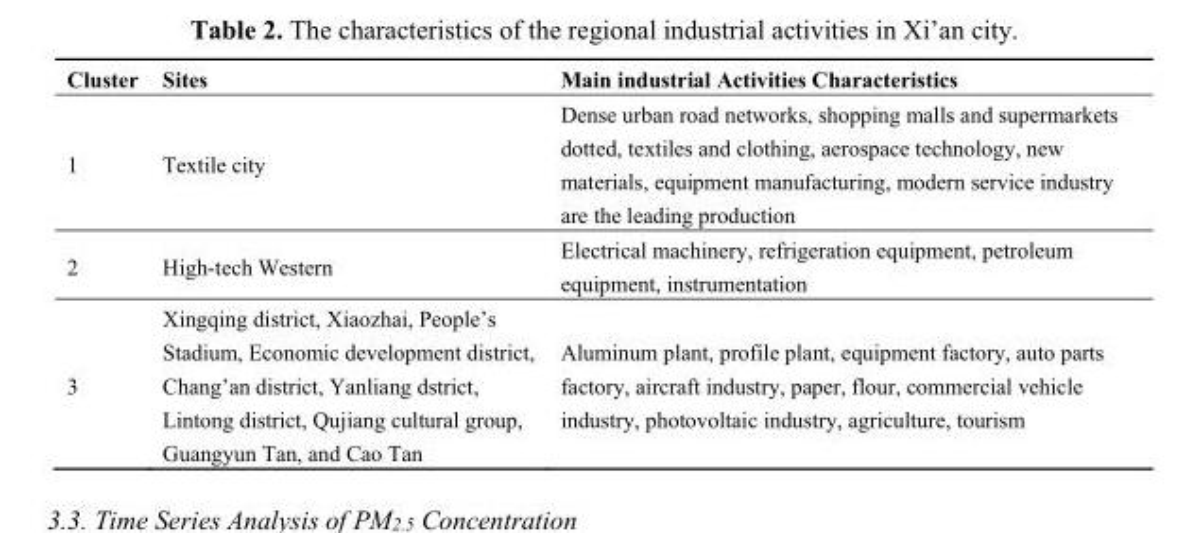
<table><thead><tr><td>Cluster</td><td>Sites</td><td>Main industrial Activities Characteristics</td></tr></thead><tbody><tr><td>1</td><td>Textile city</td><td>Dense urban road networks, shopping malls and supermarkets dotted, textiles and clothing, aerospace technology, new materials, equipment manufacturing, modern service industry are the leading production</td></tr><tr><td>2</td><td>High-tech Western</td><td>Electrical machinery, refrigeration equipment, petroleum equipment, instrumentation</td></tr><tr><td>3</td><td>Xingqing district, Xiaozhai, People’s Stadium, Economic development district, Chang’an district, Yanliang dstrict, Lintong district, Qujiang cultural group, Guangyun Tan, and Cao Tan</td><td>Aluminum plant, profile plant, equipment factory, auto parts factory, aircraft industry, paper, flour, commercial vehicle industry, photovoltaic industry, agriculture, tourism</td></tr></tbody></table>